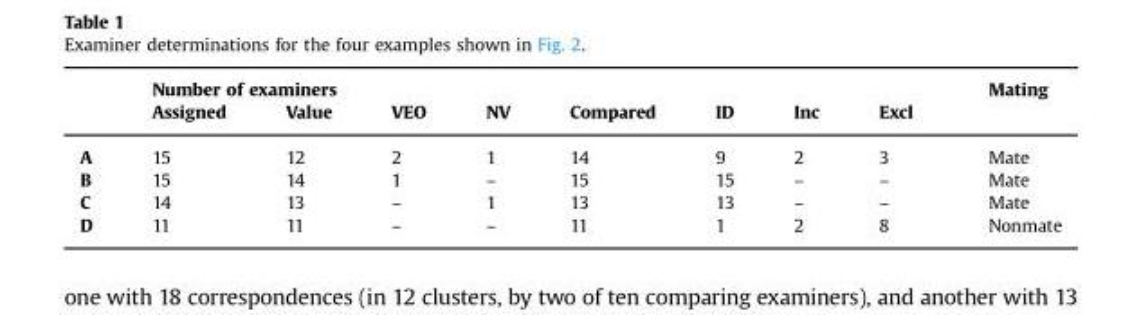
<table><thead><tr><td rowspan="2"></td><td colspan="8">Number of examiners</td><td rowspan="2">Mating</td></tr><tr><td>Assigned</td><td>Value</td><td>VEO</td><td>NV</td><td>Compared</td><td>ID</td><td>Inc</td><td>Excl</td></tr></thead><tbody><tr><td>A</td><td>15</td><td>12</td><td>2</td><td>1</td><td>14</td><td>9</td><td>2</td><td>3</td><td>Mate</td></tr><tr><td>B</td><td>15</td><td>14</td><td>1</td><td>–</td><td>15</td><td>15</td><td>–</td><td>–</td><td>Mate</td></tr><tr><td>C</td><td>14</td><td>13</td><td>–</td><td>1</td><td>13</td><td>13</td><td>–</td><td>–</td><td>Mate</td></tr><tr><td>D</td><td>11</td><td>11</td><td>–</td><td>–</td><td>11</td><td>1</td><td>2</td><td>8</td><td>Nonmate</td></tr></tbody></table>